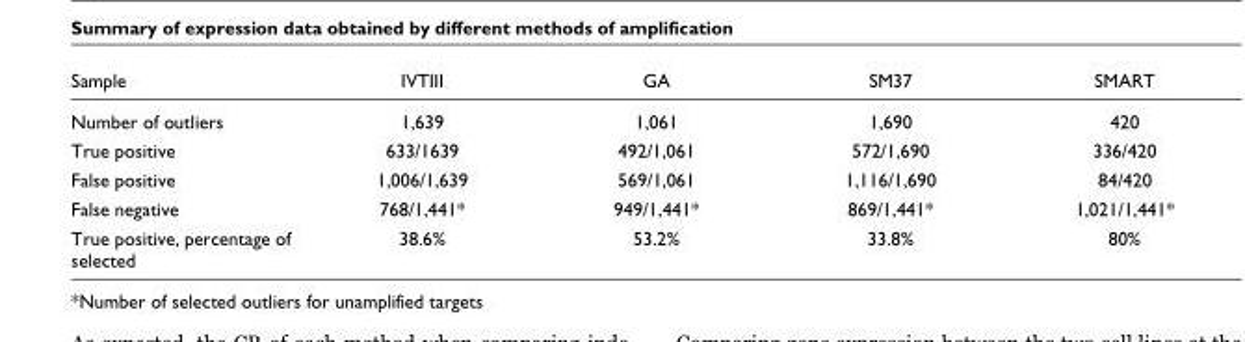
<table><thead><tr><td>Sample</td><td>IVTIII</td><td>GA</td><td>SM37</td><td>SMART</td></tr></thead><tbody><tr><td>Number of outliers</td><td>1,639</td><td>1,061</td><td>1,690</td><td>420</td></tr><tr><td>True positive</td><td>633/1639</td><td>492/1,061</td><td>572/1,690</td><td>336/420</td></tr><tr><td>False positive</td><td>1,006/1,639</td><td>569/1,061</td><td>1,116/1,690</td><td>84/420</td></tr><tr><td>False negative</td><td>768/1,441*</td><td>949/1,441*</td><td>869/1,441*</td><td>1,021/1,441*</td></tr><tr><td>True positive, percentage of selected</td><td>38.6%</td><td>53.2%</td><td>33.8%</td><td>80%</td></tr></tbody></table>